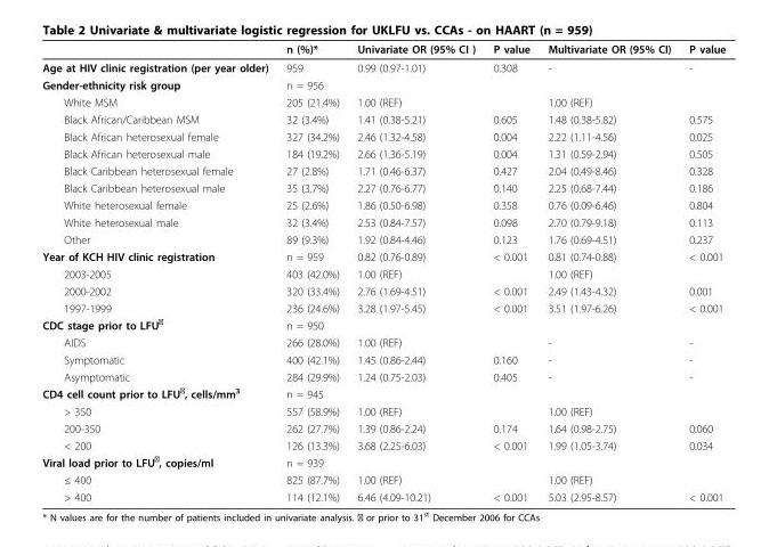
<table><thead><tr><td></td><td>n (%)*</td><td>Univariate OR (95% CI )</td><td>P value</td><td>Multivariate OR (95% CI)</td><td>P value</td></tr></thead><tbody><tr><td>Age at HIV clinic registration (per year older)</td><td>959</td><td>0.99 (0.97-1.01)</td><td>0.308</td><td>-</td><td>-</td></tr><tr><td>Gender-ethnicity risk group</td><td>n = 956</td><td></td><td></td><td></td><td></td></tr><tr><td>White MSM</td><td>205 (21.4%)</td><td>1.00 (REF)</td><td></td><td>1.00 (REF)</td><td></td></tr><tr><td>Black African/Caribbean MSM</td><td>32 (3.4%)</td><td>1.41 (0.38-5.21)</td><td>0.605</td><td>1.48 (0.38-5.82)</td><td>0.575</td></tr><tr><td>Black African heterosexual female</td><td>327 (34.2%)</td><td>2.46 (1.32-4.58)</td><td>0.004</td><td>2.22 (1.11-4.56)</td><td>0.025</td></tr><tr><td>Black African heterosexual male</td><td>184 (19.2%)</td><td>2.66 (1.36-5.19)</td><td>0.004</td><td>1.31 (0.59-2.94)</td><td>0.505</td></tr><tr><td>Black Caribbean heterosexual female</td><td>27 (2.8%)</td><td>1.71 (0.46-6.37)</td><td>0.427</td><td>2.04 (0.49-8.46)</td><td>0.328</td></tr><tr><td>Black Caribbean heterosexual male</td><td>35 (3.7%)</td><td>2.27 (0.76-6.77)</td><td>0.140</td><td>2.25 (0.68-7.44)</td><td>0.186</td></tr><tr><td>White heterosexual female</td><td>25 (2.6%)</td><td>1.86 (0.50-6.98)</td><td>0.358</td><td>0.76 (0.09-6.46)</td><td>0.804</td></tr><tr><td>White heterosexual male</td><td>32 (3.4%)</td><td>2.53 (0.84-7.57)</td><td>0.098</td><td>2.70 (0.79-9.18)</td><td>0.113</td></tr><tr><td>Other</td><td>89 (9.3%)</td><td>1.92 (0.84-4.46)</td><td>0.123</td><td>1.76 (0.69-4.51)</td><td>0.237</td></tr><tr><td>Year of KCH HIV clinic registration</td><td>n = 959</td><td>0.82 (0.76-0.89)</td><td>&lt; 0.001</td><td>0.81 (0.74-0.88)</td><td>&lt; 0.001</td></tr><tr><td>2003-2005</td><td>403 (42.0%)</td><td>1.00 (REF)</td><td></td><td>1.00 (REF)</td><td></td></tr><tr><td>2000-2002</td><td>320 (33.4%)</td><td>2.76 (1.69-4.51)</td><td>&lt; 0.001</td><td>2.49 (1.43-4.32)</td><td>0.001</td></tr><tr><td>1997-1999</td><td>236 (24.6%)</td><td>3.28 (1.97-5.45)</td><td>&lt; 0.001</td><td>3.51 (1.97-6.26)</td><td>&lt; 0.001</td></tr><tr><td>CDC stage prior to LFU<sup>ǂ</sup></td><td>n = 950</td><td></td><td></td><td></td><td></td></tr><tr><td>AIDS</td><td>266 (28.0%)</td><td>1.00 (REF)</td><td></td><td>-</td><td>-</td></tr><tr><td>Symptomatic</td><td>400 (42.1%)</td><td>1.45 (0.86-2.44)</td><td>0.160</td><td>-</td><td>-</td></tr><tr><td>Asymptomatic</td><td>284 (29.9%)</td><td>1.24 (0.75-2.03)</td><td>0.405</td><td>-</td><td>-</td></tr><tr><td>CD4 cell count prior to LFU<sup>ǂ</sup>, cells/mm<sup>3</sup></td><td>n = 945</td><td></td><td></td><td></td><td></td></tr><tr><td>&gt; 350</td><td>557 (58.9%)</td><td>1.00 (REF)</td><td></td><td>1.00 (REF)</td><td></td></tr><tr><td>200-350</td><td>262 (27.7%)</td><td>1.39 (0.86-2.24)</td><td>0.174</td><td>1.64 (0.98-2.75)</td><td>0.060</td></tr><tr><td>&lt; 200</td><td>126 (13.3%)</td><td>3.68 (2.25-6.03)</td><td>&lt; 0.001</td><td>1.99 (1.05-3.74)</td><td>0.034</td></tr><tr><td>Viral load prior to LFU<sup>ǂ</sup>, copies/ml</td><td>n = 939</td><td></td><td></td><td></td><td></td></tr><tr><td>≤ 400</td><td>825 (87.7%)</td><td>1.00 (REF)</td><td></td><td>1.00 (REF)</td><td></td></tr><tr><td>&gt; 400</td><td>114 (12.1%)</td><td>6.46 (4.09-10.21)</td><td>&lt; 0.001</td><td>5.03 (2.95-8.57)</td><td>&lt; 0.001</td></tr></tbody></table>